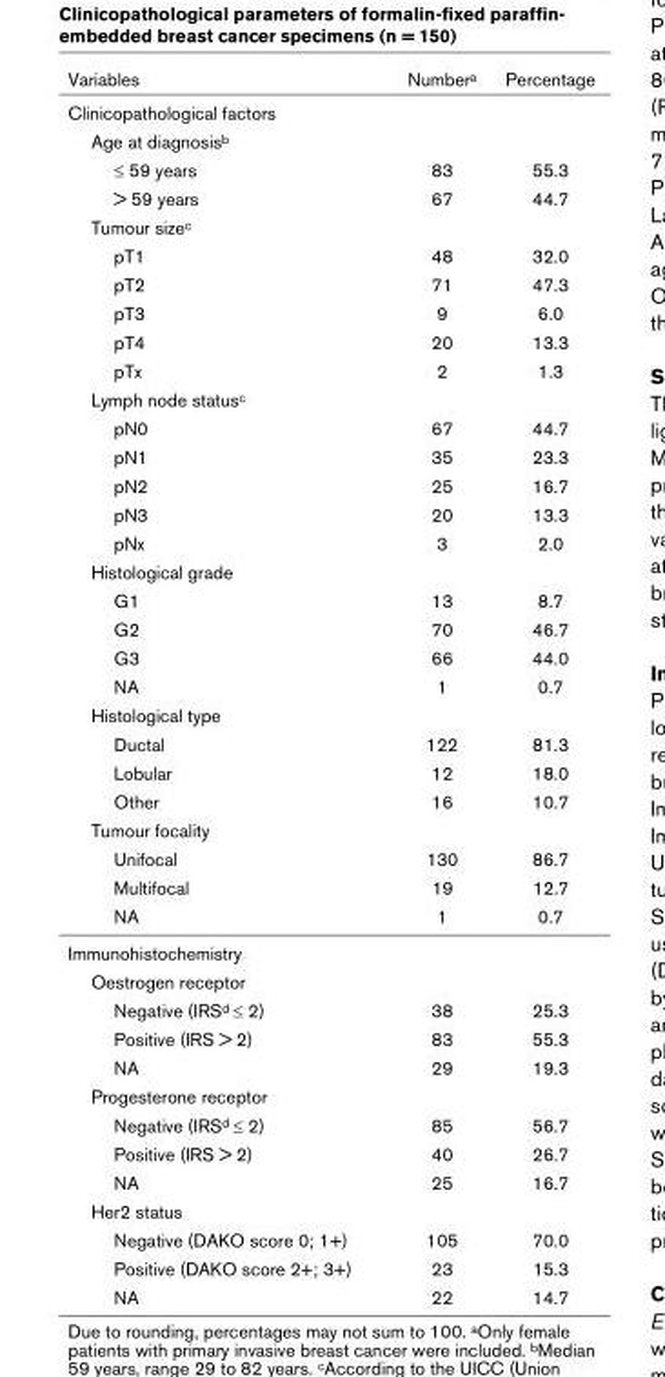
<table><thead><tr><td>Variables</td><td>Number<sup>a</sup></td><td>Percentage</td></tr></thead><tbody><tr><td colspan="3">Clinicopathological factors</td></tr><tr><td colspan="3">Age at diagnosis<sup>b</sup></td></tr><tr><td>≤ 59 years</td><td>83</td><td>55.3</td></tr><tr><td>&gt; 59 years</td><td>67</td><td>44.7</td></tr><tr><td colspan="3">Tumour size<sup>c</sup></td></tr><tr><td>pT1</td><td>48</td><td>32.0</td></tr><tr><td>pT2</td><td>71</td><td>47.3</td></tr><tr><td>pT3</td><td>9</td><td>6.0</td></tr><tr><td>pT4</td><td>20</td><td>13.3</td></tr><tr><td>pTx</td><td>2</td><td>1.3</td></tr><tr><td colspan="3">Lymph node status<sup>c</sup></td></tr><tr><td>pN0</td><td>67</td><td>44.7</td></tr><tr><td>pN1</td><td>35</td><td>23.3</td></tr><tr><td>pN2</td><td>25</td><td>16.7</td></tr><tr><td>pN3</td><td>20</td><td>13.3</td></tr><tr><td>pNx</td><td>3</td><td>2.0</td></tr><tr><td colspan="3">Histological grade</td></tr><tr><td>G1</td><td>13</td><td>8.7</td></tr><tr><td>G2</td><td>70</td><td>46.7</td></tr><tr><td>G3</td><td>66</td><td>44.0</td></tr><tr><td>NA</td><td>1</td><td>0.7</td></tr><tr><td colspan="3">Histological type</td></tr><tr><td>Ductal</td><td>122</td><td>81.3</td></tr><tr><td>Lobular</td><td>12</td><td>18.0</td></tr><tr><td>Other</td><td>16</td><td>10.7</td></tr><tr><td colspan="3">Tumour focality</td></tr><tr><td>Unifocal</td><td>130</td><td>86.7</td></tr><tr><td>Multifocal</td><td>19</td><td>12.7</td></tr><tr><td>NA</td><td>1</td><td>0.7</td></tr><tr><td colspan="3">Immunohistochemistry</td></tr><tr><td colspan="3">Oestrogen receptor</td></tr><tr><td>Negative (IRS<sup>d</sup> ≤ 2)</td><td>38</td><td>25.3</td></tr><tr><td>Positive (IRS &gt; 2)</td><td>83</td><td>55.3</td></tr><tr><td>NA</td><td>29</td><td>19.3</td></tr><tr><td colspan="3">Progesterone receptor</td></tr><tr><td>Negative (IRS<sup>d</sup> ≤ 2)</td><td>85</td><td>56.7</td></tr><tr><td>Positive (IRS &gt; 2)</td><td>40</td><td>26.7</td></tr><tr><td>NA</td><td>25</td><td>16.7</td></tr><tr><td colspan="3">Her2 status</td></tr><tr><td>Negative (DAKO score 0; 1+)</td><td>105</td><td>70.0</td></tr><tr><td>Positive (DAKO score 2+; 3+)</td><td>23</td><td>15.3</td></tr><tr><td>NA</td><td>22</td><td>14.7</td></tr></tbody></table>